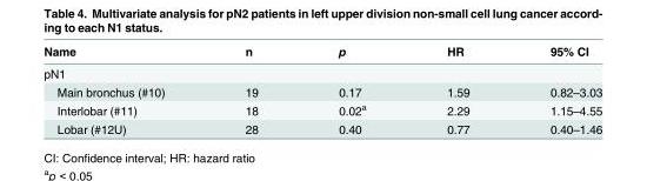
<table><thead><tr><td>Name</td><td>n</td><td>p</td><td>HR</td><td>95% CI</td></tr></thead><tbody><tr><td colspan="5">pN1</td></tr><tr><td>Main bronchus (#10)</td><td>19</td><td>0.17</td><td>1.59</td><td>0.82–3.03</td></tr><tr><td>Interlobar (#11)</td><td>18</td><td>0.02<sup>a</sup></td><td>2.29</td><td>1.15–4.55</td></tr><tr><td>Lobar (#12U)</td><td>28</td><td>0.40</td><td>0.77</td><td>0.40–1.46</td></tr></tbody></table>